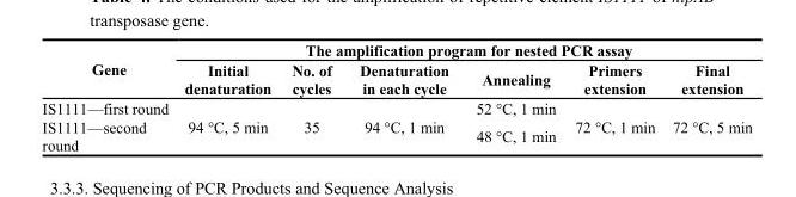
<table><thead><tr><td rowspan="2">Gene</td><td colspan="6">The amplification program for nested PCR assay</td></tr><tr><td>Initial denaturation</td><td>No. of cycles</td><td>Denaturation in each cycle</td><td>Annealing</td><td>Primers extension</td><td>Final extension</td></tr></thead><tbody><tr><td>IS1111—first round</td><td rowspan="2">94 °C, 5 min</td><td rowspan="2">35</td><td rowspan="2">94 °C, 1 min</td><td>52 °C, 1 min</td><td rowspan="2">72 °C, 1 min</td><td rowspan="2">72 °C, 5 min</td></tr><tr><td>IS1111—second round</td><td>48 °C, 1 min</td></tr></tbody></table>